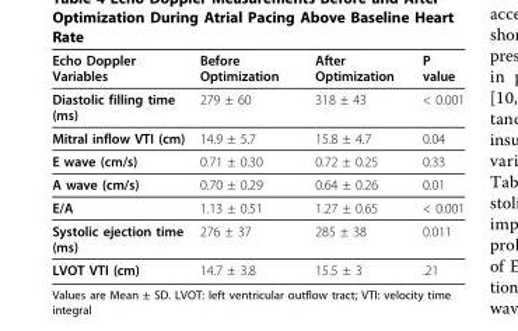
<table><thead><tr><td>Echo Doppler Variables</td><td>Before Optimization</td><td>After Optimization</td><td>P value</td></tr></thead><tbody><tr><td>Diastolic filling time (ms)</td><td>279 ± 60</td><td>318 ± 43</td><td>&lt; 0.001</td></tr><tr><td>Mitral inflow VTI (cm)</td><td>14.9 ± 5.7</td><td>15.8 ± 4.7</td><td>0.04</td></tr><tr><td>E wave (cm/s)</td><td>0.71 ± 0.30</td><td>0.72 ± 0.25</td><td>0.33</td></tr><tr><td>A wave (cm/s)</td><td>0.70 ± 0.29</td><td>0.64 ± 0.26</td><td>0.01</td></tr><tr><td>E/A</td><td>1.13 ± 0.51</td><td>1.27 ± 0.65</td><td>&lt; 0.001</td></tr><tr><td>Systolic ejection time (ms)</td><td>276 ± 37</td><td>285 ± 38</td><td>0.011</td></tr><tr><td>LVOT VTI (cm)</td><td>14.7 ± 3.8</td><td>15.5 ± 3</td><td>.21</td></tr></tbody></table>